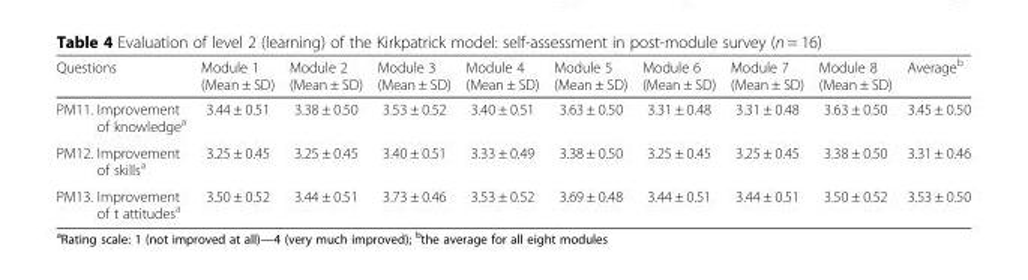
<table><thead><tr><td>Questions</td><td>Module 1 (Mean ± SD)</td><td>Module 2 (Mean ± SD)</td><td>Module 3 (Mean ± SD)</td><td>Module 4 (Mean ± SD)</td><td>Module 5 (Mean ± SD)</td><td>Module 6 (Mean ± SD)</td><td>Module 7 (Mean ± SD)</td><td>Module 8 (Mean ± SD)</td><td>Average<sup>b</sup></td></tr></thead><tbody><tr><td>PM11. Improvement of knowledge<sup>a</sup></td><td>3.44 ± 0.51</td><td>3.38 ± 0.50</td><td>3.53 ± 0.52</td><td>3.40 ± 0.51</td><td>3.63 ± 0.50</td><td>3.31 ± 0.48</td><td>3.31 ± 0.48</td><td>3.63 ± 0.50</td><td>3.45 ± 0.50</td></tr><tr><td>PM12. Improvement of skills<sup>a</sup></td><td>3.25 ± 0.45</td><td>3.25 ± 0.45</td><td>3.40 ± 0.51</td><td>3.33 ± 0.49</td><td>3.38 ± 0.50</td><td>3.25 ± 0.45</td><td>3.25 ± 0.45</td><td>3.38 ± 0.50</td><td>3.31 ± 0.46</td></tr><tr><td>PM13. Improvement of t attitudes<sup>a</sup></td><td>3.50 ± 0.52</td><td>3.44 ± 0.51</td><td>3.73 ± 0.46</td><td>3.53 ± 0.52</td><td>3.69 ± 0.48</td><td>3.44 ± 0.51</td><td>3.44 ± 0.51</td><td>3.50 ± 0.52</td><td>3.53 ± 0.50</td></tr></tbody></table>